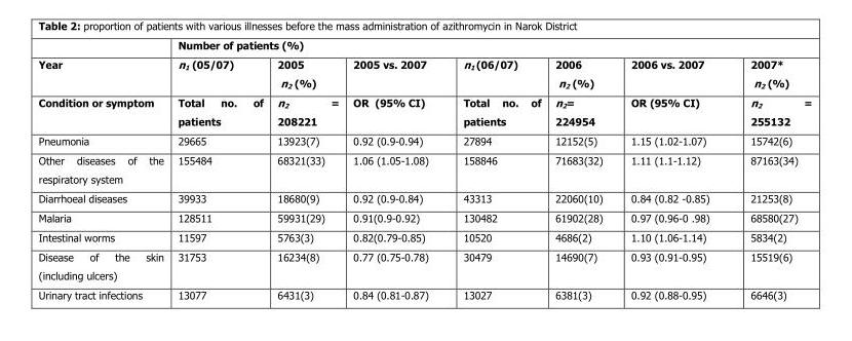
<table><thead><tr><td rowspan="3">Year Condition or symptom</td><td colspan="7">Number of patients (%)</td></tr><tr><td rowspan="2">n<sub>1</sub> (05/07) Total no. of patients</td><td rowspan="2">2005 n<sub>2</sub> (%) n<sub>2</sub> = 208221</td><td rowspan="2">2005 vs. 2007 OR (95% CI)</td><td rowspan="2">n<sub>1</sub> (06/07) Total no. of patients</td><td rowspan="2">2006 n<sub>2</sub> (%) n<sub>2</sub>= 224954</td><td rowspan="2">2006 vs. 2007 OR (95% CI)</td><td rowspan="2">2007* n<sub>2</sub> (%) n<sub>2</sub> = 255132</td></tr><tr></tr></thead><tbody><tr><td>Pneumonia</td><td>29665</td><td>13923(7)</td><td>0.92 (0.9-0.94)</td><td>27894</td><td>12152(5)</td><td>1.15 (1.02-1.07)</td><td>15742(6)</td></tr><tr><td>Other diseases of the respiratory system</td><td>155484</td><td>68321(33)</td><td>1.06 (1.05-1.08)</td><td>158846</td><td>71683(32)</td><td>1.11 (1.1-1.12)</td><td>87163(34)</td></tr><tr><td>Diarrhoeal diseases</td><td>39933</td><td>18680(9)</td><td>0.92 (0.9-0.84)</td><td>43313</td><td>22060(10)</td><td>0.84 (0.82 -0.85)</td><td>21253(8)</td></tr><tr><td>Malaria</td><td>128511</td><td>59931(29)</td><td>0.91(0.9-0.92)</td><td>130482</td><td>61902(28)</td><td>0.97 (0.96-0 .98)</td><td>68580(27)</td></tr><tr><td>Intestinal worms</td><td>11597</td><td>5763(3)</td><td>0.82(0.79-0.85)</td><td>10520</td><td>4686(2)</td><td>1.10 (1.06-1.14)</td><td>5834(2)</td></tr><tr><td>Disease of the skin (including ulcers)</td><td>31753</td><td>16234(8)</td><td>0.77 (0.75-0.78)</td><td>30479</td><td>14690(7)</td><td>0.93 (0.91-0.95)</td><td>15519(6)</td></tr><tr><td>Urinary tract infections</td><td>13077</td><td>6431(3)</td><td>0.84 (0.81-0.87)</td><td>13027</td><td>6381(3)</td><td>0.92 (0.88-0.95)</td><td>6646(3)</td></tr></tbody></table>